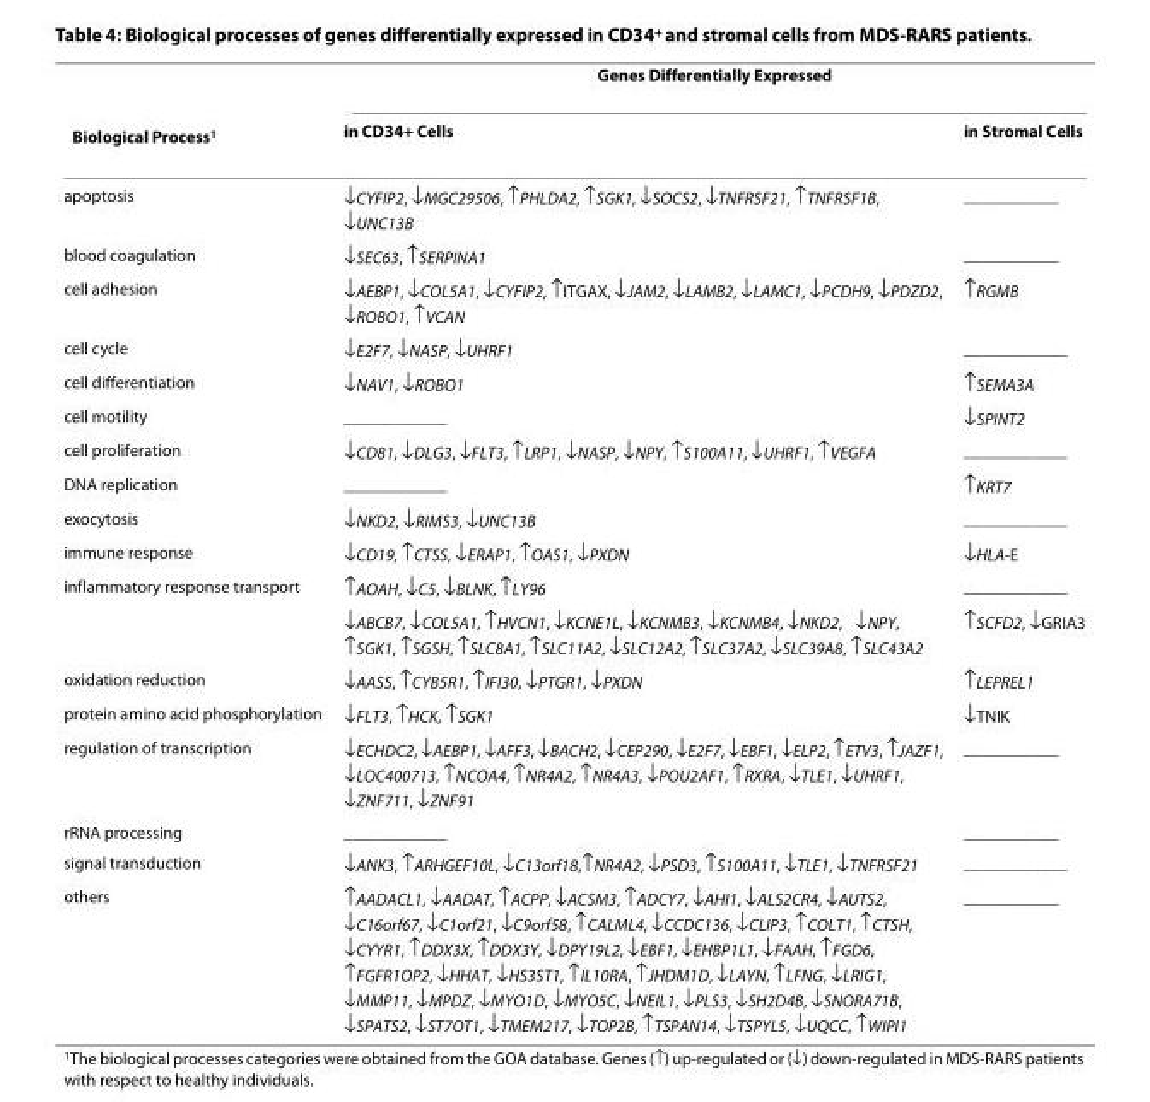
<table><thead><tr><td rowspan="2">Biological Process<sup>1</sup></td><td colspan="2">Genes Differentially Expressed</td></tr><tr><td>in CD34+ Cells</td><td>in Stromal Cells</td></tr></thead><tbody><tr><td>apoptosis</td><td>↓CYFIP2, ↓MGC29506, ↑PHLDA2, ↑SGK1, ↓SOCS2, ↓TNFRSF21, ↑TNFRSF1B, ↓UNC13B</td><td>___________</td></tr><tr><td>blood coagulation</td><td>↓SEC63, ↑SERPINA1</td><td>___________</td></tr><tr><td>cell adhesion</td><td>↓AEBP1, ↓COL5A1, ↓CYFIP2, ↑ITGAX, ↓JAM2, ↓LAMB2, ↓LAMC1, ↓PCDH9, ↓PDZD2, ↓ROBO1, ↑VCAN</td><td>↑RGMB</td></tr><tr><td>cell cycle</td><td>↓E2F7, ↓NASP, ↓UHRF1</td><td>____________</td></tr><tr><td>cell differentiation</td><td>↓NAV1, ↓ROBO1</td><td>↑SEMA3A</td></tr><tr><td>cell motility</td><td>____________</td><td>↓SPINT2</td></tr><tr><td>cell proliferation</td><td>↓CD81, ↓DLG3, ↓FLT3, ↑LRP1, ↓NASP, ↓NPY, ↑S100A11, ↓UHRF1, ↑VEGFA</td><td>____________</td></tr><tr><td>DNA replication</td><td>____________</td><td>↑KRT7</td></tr><tr><td>exocytosis</td><td>↓NKD2, ↓RIMS3, ↓UNC13B</td><td>____________</td></tr><tr><td>immune response</td><td>↓CD19, ↑CTSS, ↓ERAP1, ↑OAS1, ↓PXDN</td><td>↓HLA-E</td></tr><tr><td rowspan="2">inflammatory response transport</td><td>↑AOAH, ↓C5, ↓BLNK, ↑LY96</td><td>____________</td></tr><tr><td>↓ABCB7, ↓COL5A1, ↑HVCN1, ↓KCNE1L, ↓KCNMB3, ↓KCNMB4, ↓NKD2, �↓NPY, ↑SGK1, ↑SGSH, ↑SLC8A1, ↑SLC11A2, ↓SLC12A2, ↑SLC37A2, ↓SLC39A8, ↑SLC43A2</td><td>↑SCFD2, ↓GRIA3</td></tr><tr><td>oxidation reduction</td><td>↓AASS, ↑CYB5R1, ↑IFI30, ↓PTGR1, ↓PXDN</td><td>↑LEPREL1</td></tr><tr><td>protein amino acid phosphorylation</td><td>↓FLT3, ↑HCK, ↑SGK1</td><td>↓TNIK</td></tr><tr><td>regulation of transcription</td><td>↓ECHDC2, ↓AEBP1, ↓AFF3, ↓BACH2, ↓CEP290, ↓E2F7, ↓EBF1, ↓ELP2, ↑ETV3, ↑JAZF1, ↓LOC400713, ↑NCOA4, ↑NR4A2, ↑NR4A3, ↓POU2AF1, ↑RXRA, ↓TLE1, ↓UHRF1, ↓ZNF711, ↓ZNF91</td><td>___________</td></tr><tr><td>rRNA processing</td><td>____________</td><td>___________</td></tr><tr><td>signal transduction</td><td>↓ANK3, ↑ARHGEF10L, ↓C13orf18,↑NR4A2, ↓PSD3, ↑S100A11, ↓TLE1, ↓TNFRSF21</td><td>____________</td></tr><tr><td>others</td><td>↑AADACL1, ↓AADAT, ↑ACPP, ↓ACSM3, ↑ADCY7, ↓AHI1, ↓ALS2CR4, ↓AUTS2, ↓C16orf67, ↓C1orf21, ↓C9orf58, ↑CALML4, ↓CCDC136, ↓CLIP3, ↑COLT1, ↑CTSH, ↓CYYR1, ↑DDX3X, ↑DDX3Y, ↓DPY19L2, ↓EBF1, ↓EHBP1L1, ↓FAAH, ↑FGD6, ↑FGFR1OP2, ↓HHAT, ↓HS3ST1, ↑IL10RA, ↑JHDM1D, ↓LAYN, ↑LFNG, ↓LRIG1, ↓MMP11, ↓MPDZ, ↓MYO1D, ↓MYO5C, ↓NEIL1, ↓PLS3, ↓SH2D4B, ↓SNORA71B, ↓SPATS2, ↓ST7OT1, ↓TMEM217, ↓TOP2B, ↑TSPAN14, ↓TSPYL5, ↓UQCC, ↑WIPI1</td><td>___________</td></tr></tbody></table>